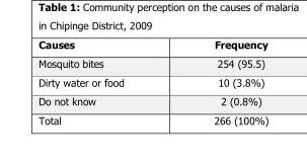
<table><thead><tr><td>Causes</td><td>Frequency</td></tr></thead><tbody><tr><td>Mosquito bites</td><td>254 (95.5)</td></tr><tr><td>Dirty water or food</td><td>10 (3.8%)</td></tr><tr><td>Do not know</td><td>2 (0.8%)</td></tr><tr><td>Total</td><td>266 (100%)</td></tr></tbody></table>